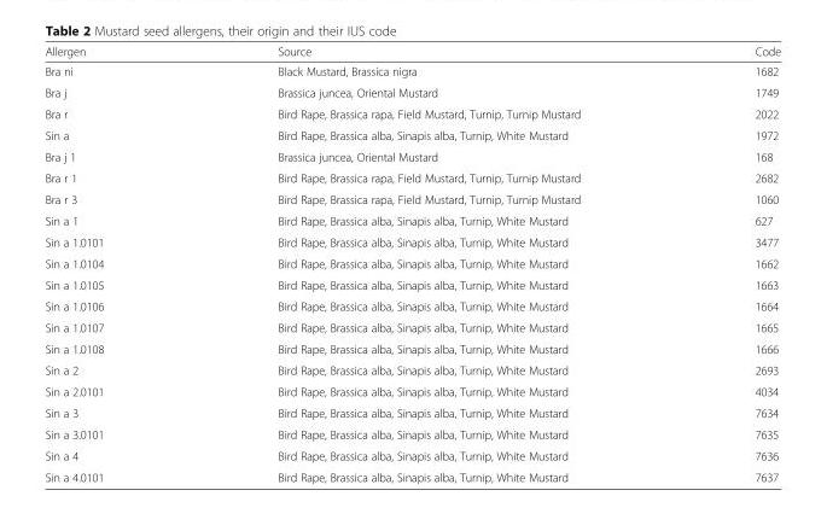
<table><thead><tr><td>Allergen</td><td>Source</td><td>Code</td></tr></thead><tbody><tr><td>Bra ni</td><td>Black Mustard, Brassica nigra</td><td>1682</td></tr><tr><td>Bra j</td><td>Brassica juncea, Oriental Mustard</td><td>1749</td></tr><tr><td>Bra r</td><td>Bird Rape, Brassica rapa, Field Mustard, Turnip, Turnip Mustard</td><td>2022</td></tr><tr><td>Sin a</td><td>Bird Rape, Brassica alba, Sinapis alba, Turnip, White Mustard</td><td>1972</td></tr><tr><td>Bra j 1</td><td>Brassica juncea, Oriental Mustard</td><td>168</td></tr><tr><td>Bra r 1</td><td>Bird Rape, Brassica rapa, Field Mustard, Turnip, Turnip Mustard</td><td>2682</td></tr><tr><td>Bra r 3</td><td>Bird Rape, Brassica rapa, Field Mustard, Turnip, Turnip Mustard</td><td>1060</td></tr><tr><td>Sin a 1</td><td>Bird Rape, Brassica alba, Sinapis alba, Turnip, White Mustard</td><td>627</td></tr><tr><td>Sin a 1.0101</td><td>Bird Rape, Brassica alba, Sinapis alba, Turnip, White Mustard</td><td>3477</td></tr><tr><td>Sin a 1.0104</td><td>Bird Rape, Brassica alba, Sinapis alba, Turnip, White Mustard</td><td>1662</td></tr><tr><td>Sin a 1.0105</td><td>Bird Rape, Brassica alba, Sinapis alba, Turnip, White Mustard</td><td>1663</td></tr><tr><td>Sin a 1.0106</td><td>Bird Rape, Brassica alba, Sinapis alba, Turnip, White Mustard</td><td>1664</td></tr><tr><td>Sin a 1.0107</td><td>Bird Rape, Brassica alba, Sinapis alba, Turnip, White Mustard</td><td>1665</td></tr><tr><td>Sin a 1.0108</td><td>Bird Rape, Brassica alba, Sinapis alba, Turnip, White Mustard</td><td>1666</td></tr><tr><td>Sin a 2</td><td>Bird Rape, Brassica alba, Sinapis alba, Turnip, White Mustard</td><td>2693</td></tr><tr><td>Sin a 2.0101</td><td>Bird Rape, Brassica alba, Sinapis alba, Turnip, White Mustard</td><td>4034</td></tr><tr><td>Sin a 3</td><td>Bird Rape, Brassica alba, Sinapis alba, Turnip, White Mustard</td><td>7634</td></tr><tr><td>Sin a 3.0101</td><td>Bird Rape, Brassica alba, Sinapis alba, Turnip, White Mustard</td><td>7635</td></tr><tr><td>Sin a 4</td><td>Bird Rape, Brassica alba, Sinapis alba, Turnip, White Mustard</td><td>7636</td></tr><tr><td>Sin a 4.0101</td><td>Bird Rape, Brassica alba, Sinapis alba, Turnip, White Mustard</td><td>7637</td></tr></tbody></table>